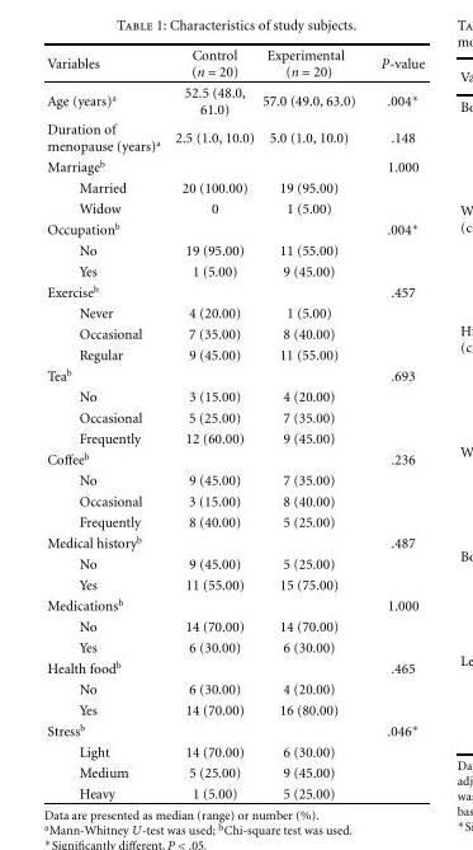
<table><thead><tr><td>Variables</td><td>Control (n = 20)</td><td>Experimental (n = 20)</td><td>P-value</td></tr></thead><tbody><tr><td>Age (years)<sup>a</sup></td><td>52.5 (48.0, 61.0)</td><td>57.0 (49.0, 63.0)</td><td>.004∗</td></tr><tr><td>Duration of menopause (years)<sup>a</sup></td><td>2.5 (1.0, 10.0)</td><td>5.0 (1.0, 10.0)</td><td>.148</td></tr><tr><td>Marriage<sup>b</sup></td><td></td><td></td><td>1.000</td></tr><tr><td>Married</td><td>20 (100.00)</td><td>19 (95.00)</td><td></td></tr><tr><td>Widow</td><td>0</td><td>1 (5.00)</td><td></td></tr><tr><td>Occupation<sup>b</sup></td><td></td><td></td><td>.004∗</td></tr><tr><td>No</td><td>19 (95.00)</td><td>11 (55.00)</td><td></td></tr><tr><td>Yes</td><td>1 (5.00)</td><td>9 (45.00)</td><td></td></tr><tr><td>Exercise<sup>b</sup></td><td></td><td></td><td>.457</td></tr><tr><td>Never</td><td>4 (20.00)</td><td>1 (5.00)</td><td></td></tr><tr><td>Occasional</td><td>7 (35.00)</td><td>8 (40.00)</td><td></td></tr><tr><td>Regular</td><td>9 (45.00)</td><td>11 (55.00)</td><td></td></tr><tr><td>Tea<sup>b</sup></td><td></td><td></td><td>.693</td></tr><tr><td>No</td><td>3 (15.00)</td><td>4 (20.00)</td><td></td></tr><tr><td>Occasional</td><td>5 (25.00)</td><td>7 (35.00)</td><td></td></tr><tr><td>Frequently</td><td>12 (60.00)</td><td>9 (45.00)</td><td></td></tr><tr><td>Coffee<sup>b</sup></td><td></td><td></td><td>.236</td></tr><tr><td>No</td><td>9 (45.00)</td><td>7 (35.00)</td><td></td></tr><tr><td>Occasional</td><td>3 (15.00)</td><td>8 (40.00)</td><td></td></tr><tr><td>Frequently</td><td>8 (40.00)</td><td>5 (25.00)</td><td></td></tr><tr><td>Medical history<sup>b</sup></td><td></td><td></td><td>.487</td></tr><tr><td>No</td><td>9 (45.00)</td><td>5 (25.00)</td><td></td></tr><tr><td>Yes</td><td>11 (55.00)</td><td>15 (75.00)</td><td></td></tr><tr><td>Medications<sup>b</sup></td><td></td><td></td><td>1.000</td></tr><tr><td>No</td><td>14 (70.00)</td><td>14 (70.00)</td><td></td></tr><tr><td>Yes</td><td>6 (30.00)</td><td>6 (30.00)</td><td></td></tr><tr><td>Health food<sup>b</sup></td><td></td><td></td><td>.465</td></tr><tr><td>No</td><td>6 (30.00)</td><td>4 (20.00)</td><td></td></tr><tr><td>Yes</td><td>14 (70.00)</td><td>16 (80.00)</td><td></td></tr><tr><td>Stress<sup>b</sup></td><td></td><td></td><td>.046∗</td></tr><tr><td>Light</td><td>14 (70.00)</td><td>6 (30.00)</td><td></td></tr><tr><td>Medium</td><td>5 (25.00)</td><td>9 (45.00)</td><td></td></tr><tr><td>Heavy</td><td>1 (5.00)</td><td>5 (25.00)</td><td></td></tr></tbody></table>